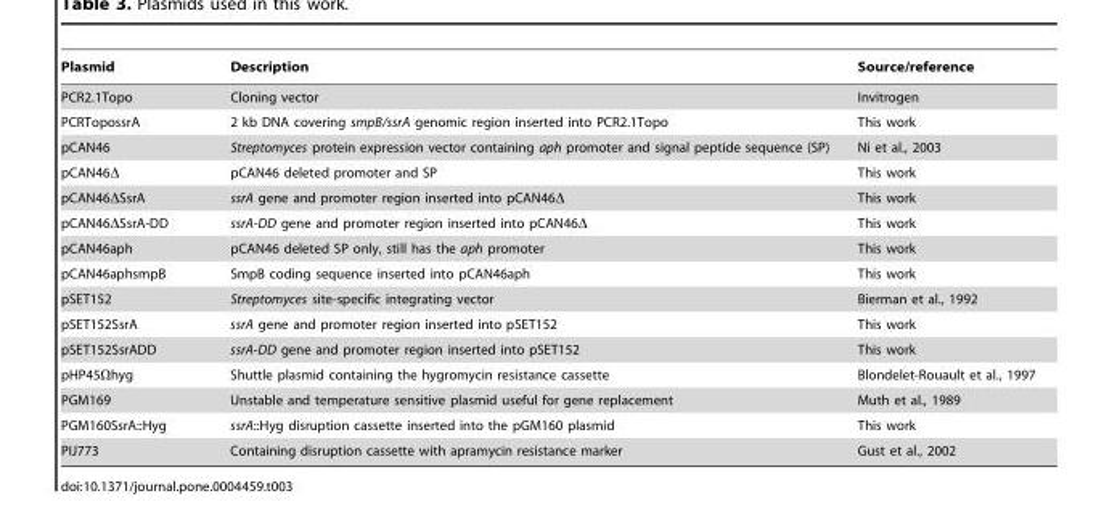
<table><thead><tr><td>Plasmid</td><td>Description</td><td>Source/reference</td></tr></thead><tbody><tr><td>PCR2.1Topo</td><td>Cloning vector</td><td>Invitrogen</td></tr><tr><td>PCRTopossrA</td><td>2 kb DNA covering smpB/ssrA genomic region inserted into PCR2.1Topo</td><td>This work</td></tr><tr><td>pCAN46</td><td>Streptomyces protein expression vector containing aph promoter and signal peptide sequence (SP)</td><td>Ni et al., 2003</td></tr><tr><td>pCAN46Δ</td><td>pCAN46 deleted promoter and SP</td><td>This work</td></tr><tr><td>pCAN46ΔSsrA</td><td>ssrA gene and promoter region inserted into pCAN46Δ</td><td>This work</td></tr><tr><td>pCAN46ΔSsrA-DD</td><td>ssrA-DD gene and promoter region inserted into pCAN46Δ</td><td>This work</td></tr><tr><td>pCAN46aph</td><td>pCAN46 deleted SP only, still has the aph promoter</td><td>This work</td></tr><tr><td>pCAN46aphsmpB</td><td>SmpB coding sequence inserted into pCAN46aph</td><td>This work</td></tr><tr><td>pSET152</td><td>Streptomyces site-specific integrating vector</td><td>Bierman et al., 1992</td></tr><tr><td>pSET152SsrA</td><td>ssrA gene and promoter region inserted into pSET152</td><td>This work</td></tr><tr><td>pSET152SsrADD</td><td>ssrA-DD gene and promoter region inserted into pSET152</td><td>This work</td></tr><tr><td>pHP45Ωhyg</td><td>Shuttle plasmid containing the hygromycin resistance cassette</td><td>Blondelet-Rouault et al., 1997</td></tr><tr><td>PGM169</td><td>Unstable and temperature sensitive plasmid useful for gene replacement</td><td>Muth et al., 1989</td></tr><tr><td>PGM160SsrA::Hyg</td><td>ssrA::Hyg disruption cassette inserted into the pGM160 plasmid</td><td>This work</td></tr><tr><td>PIJ773</td><td>Containing disruption cassette with apramycin resistance marker</td><td>Gust et al., 2002</td></tr></tbody></table>